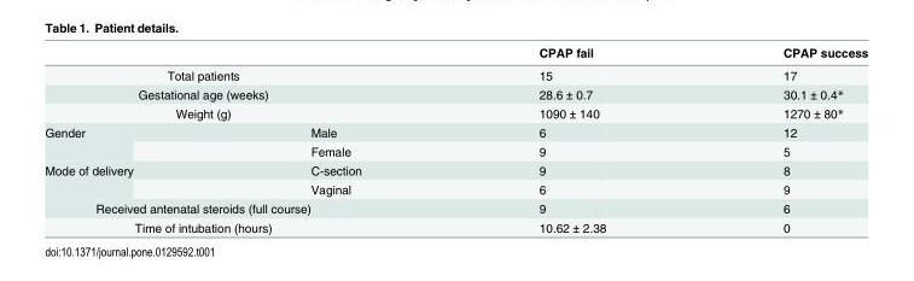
<table><thead><tr><td></td><td></td><td>CPAP fail</td><td>CPAP success</td></tr></thead><tbody><tr><td colspan="2">Total patients</td><td>15</td><td>17</td></tr><tr><td colspan="2">Gestational age (weeks)</td><td>28.6 ± 0.7</td><td>30.1 ± 0.4*</td></tr><tr><td colspan="2">Weight (g)</td><td>1090 ± 140</td><td>1270 ± 80*</td></tr><tr><td rowspan="2">Gender</td><td>Male</td><td>6</td><td>12</td></tr><tr><td>Female</td><td>9</td><td>5</td></tr><tr><td rowspan="2">Mode of delivery</td><td>C-section</td><td>9</td><td>8</td></tr><tr><td>Vaginal</td><td>6</td><td>9</td></tr><tr><td colspan="2">Received antenatal steroids (full course)</td><td>9</td><td>6</td></tr><tr><td colspan="2">Time of intubation (hours)</td><td>10.62 ± 2.38</td><td>0</td></tr></tbody></table>